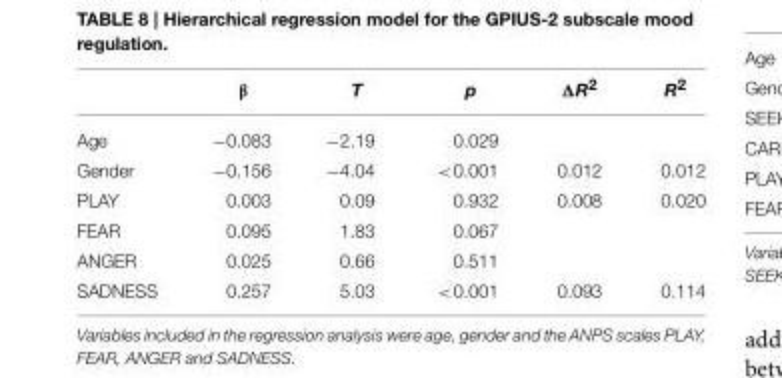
<table><thead><tr><td></td><td>β</td><td>T</td><td>p</td><td>ΔR<sup>2</sup></td><td>R<sup>2</sup></td></tr></thead><tbody><tr><td>Age</td><td>−0.083</td><td>−2.19</td><td>0.029</td><td></td><td></td></tr><tr><td>Gender</td><td>−0.156</td><td>−4.04</td><td>&lt;0.001</td><td>0.012</td><td>0.012</td></tr><tr><td>PLAY</td><td>0.003</td><td>0.09</td><td>0.932</td><td>0.008</td><td>0.020</td></tr><tr><td>FEAR</td><td>0.095</td><td>1.83</td><td>0.067</td><td></td><td></td></tr><tr><td>ANGER</td><td>0.025</td><td>0.66</td><td>0.511</td><td></td><td></td></tr><tr><td>SADNESS</td><td>0.257</td><td>5.03</td><td>&lt;0.001</td><td>0.093</td><td>0.114</td></tr></tbody></table>